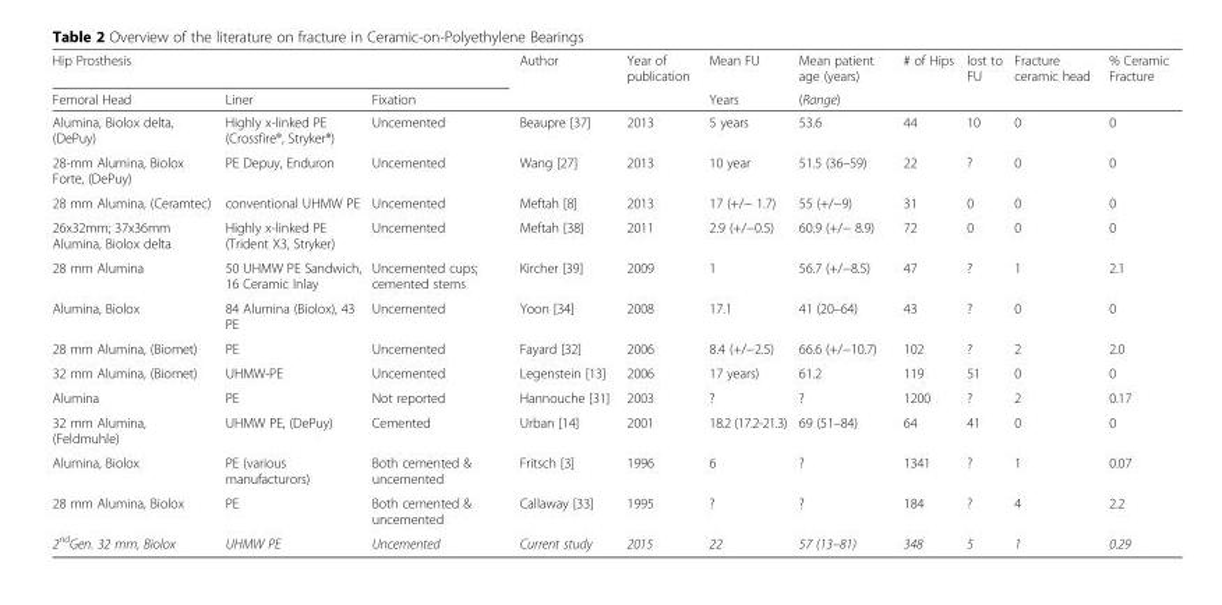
<table><thead><tr><td colspan="3">Hip Prosthesis</td><td rowspan="2">Author</td><td rowspan="2">Year of publication</td><td rowspan="2">Mean FU Years</td><td rowspan="2">Mean patient age (years) (Range)</td><td rowspan="2"># of Hips</td><td rowspan="2">lost to FU</td><td rowspan="2">Fracture ceramic head</td><td rowspan="2">% Ceramic Fracture</td></tr><tr><td>Femoral Head</td><td>Liner</td><td>Fixation</td></tr></thead><tbody><tr><td>Alumina, Biolox delta, (DePuy)</td><td>Highly x-linked PE (Crossfire®, Stryker®)</td><td>Uncemented</td><td>Beaupre [37]</td><td>2013</td><td>5 years</td><td>53.6</td><td>44</td><td>10</td><td>0</td><td>0</td></tr><tr><td>28-mm Alumina, Biolox Forte, (DePuy)</td><td>PE Depuy, Enduron</td><td>Uncemented</td><td>Wang [27]</td><td>2013</td><td>10 year</td><td>51.5 (36–59)</td><td>22</td><td>?</td><td>0</td><td>0</td></tr><tr><td>28 mm Alumina, (Ceramtec)</td><td>conventional UHMW PE</td><td>Uncemented</td><td>Meftah [8]</td><td>2013</td><td>17 (+/− 1.7)</td><td>55 (+/−9)</td><td>31</td><td>0</td><td>0</td><td>0</td></tr><tr><td>26x32mm; 37x36mm Alumina, Biolox delta</td><td>Highly x-linked PE (Trident X3, Stryker)</td><td>Uncemented</td><td>Meftah [38]</td><td>2011</td><td>2.9 (+/−0.5)</td><td>60.9 (+/− 8.9)</td><td>72</td><td>0</td><td>0</td><td>0</td></tr><tr><td>28 mm Alumina</td><td>50 UHMW PE Sandwich, 16 Ceramic Inlay</td><td>Uncemented cups; cemented stems</td><td>Kircher [39]</td><td>2009</td><td>1</td><td>56.7 (+/−8.5)</td><td>47</td><td>?</td><td>1</td><td>2.1</td></tr><tr><td>Alumina, Biolox</td><td>84 Alumina (Biolox), 43 PE</td><td>Uncemented</td><td>Yoon [34]</td><td>2008</td><td>17.1</td><td>41 (20–64)</td><td>43</td><td>?</td><td>0</td><td>0</td></tr><tr><td>28 mm Alumina, (Biomet)</td><td>PE</td><td>Uncemented</td><td>Fayard [32]</td><td>2006</td><td>8.4 (+/−2.5)</td><td>66.6 (+/−10.7)</td><td>102</td><td>?</td><td>2</td><td>2.0</td></tr><tr><td>32 mm Alumina, (Biomet)</td><td>UHMW-PE</td><td>Uncemented</td><td>Legenstein [13]</td><td>2006</td><td>17 years)</td><td>61.2</td><td>119</td><td>51</td><td>0</td><td>0</td></tr><tr><td>Alumina</td><td>PE</td><td>Not reported</td><td>Hannouche [31]</td><td>2003</td><td>?</td><td>?</td><td>1200</td><td>?</td><td>2</td><td>0.17</td></tr><tr><td>32 mm Alumina, (Feldmuhle)</td><td>UHMW PE, (DePuy)</td><td>Cemented</td><td>Urban [14]</td><td>2001</td><td>18.2 (17.2-21.3)</td><td>69 (51–84)</td><td>64</td><td>41</td><td>0</td><td>0</td></tr><tr><td>Alumina, Biolox</td><td>PE (various manufacturors)</td><td>Both cemented &amp; uncemented</td><td>Fritsch [3]</td><td>1996</td><td>6</td><td>?</td><td>1341</td><td>?</td><td>1</td><td>0.07</td></tr><tr><td>28 mm Alumina, Biolox</td><td>PE</td><td>Both cemented &amp; uncemented</td><td>Callaway [33]</td><td>1995</td><td>?</td><td>?</td><td>184</td><td>?</td><td>4</td><td>2.2</td></tr><tr><td>2<sup>nd</sup>Gen. 32 mm, Biolox</td><td>UHMW PE</td><td>Uncemented</td><td>Current study</td><td>2015</td><td>22</td><td>57 (13–81)</td><td>348</td><td>5</td><td>1</td><td>0.29</td></tr></tbody></table>